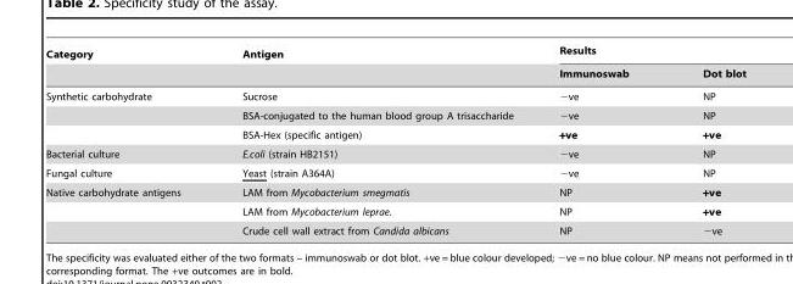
<table><thead><tr><td rowspan="2">Category</td><td rowspan="2">Antigen</td><td colspan="2">Results</td></tr><tr><td>Immunoswab</td><td>Dot blot</td></tr></thead><tbody><tr><td rowspan="3">Synthetic carbohydrate</td><td>Sucrose</td><td>−ve</td><td>NP</td></tr><tr><td>BSA-conjugated to the human blood group A trisaccharide</td><td>−ve</td><td>NP</td></tr><tr><td>BSA-Hex (specific antigen)</td><td>+ve</td><td>+ve</td></tr><tr><td>Bacterial culture</td><td>E.coli (strain HB2151)</td><td>−ve</td><td>NP</td></tr><tr><td>Fungal culture</td><td>Yeast (strain A364A)</td><td>−ve</td><td>NP</td></tr><tr><td rowspan="3">Native carbohydrate antigens</td><td>LAM from Mycobacterium smegmatis</td><td>NP</td><td>+ve</td></tr><tr><td>LAM from Mycobacterium leprae.</td><td>NP</td><td>+ve</td></tr><tr><td>Crude cell wall extract from Candida albicans</td><td>NP</td><td>−ve</td></tr></tbody></table>